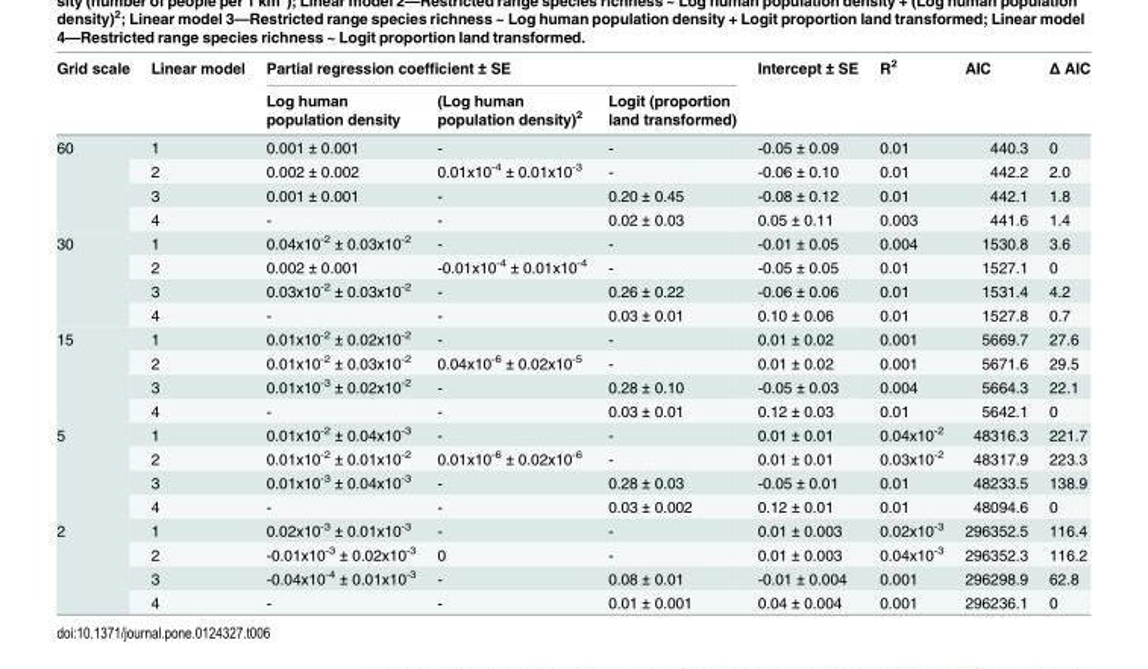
<table><thead><tr><td rowspan="2">Grid scale</td><td rowspan="2">Linear model</td><td colspan="3">Partial regression coefficient ± SE</td><td rowspan="2">Intercept ± SE</td><td rowspan="2">R<sup>2</sup></td><td rowspan="2">AIC</td><td rowspan="2">Δ AIC</td></tr><tr><td>Log human population density</td><td>(Log human population density)<sup>2</sup></td><td>Logit (proportion land transformed)</td></tr></thead><tbody><tr><td rowspan="4">60</td><td>1</td><td>0.001 ± 0.001</td><td>-</td><td>-</td><td>-0.05 ± 0.09</td><td>0.01</td><td>440.3</td><td>0</td></tr><tr><td>2</td><td>0.002 ± 0.002</td><td>0.01x10<sup>-4</sup> ± 0.01x10<sup>-3</sup></td><td>-</td><td>-0.06 ± 0.10</td><td>0.01</td><td>442.2</td><td>2.0</td></tr><tr><td>3</td><td>0.001 ± 0.001</td><td>-</td><td>0.20 ± 0.45</td><td>-0.08 ± 0.12</td><td>0.01</td><td>442.1</td><td>1.8</td></tr><tr><td>4</td><td>-</td><td>-</td><td>0.02 ± 0.03</td><td>0.05 ± 0.11</td><td>0.003</td><td>441.6</td><td>1.4</td></tr><tr><td rowspan="4">30</td><td>1</td><td>0.04x10<sup>-2</sup> ± 0.03x10<sup>-2</sup></td><td>-</td><td>-</td><td>-0.01 ± 0.05</td><td>0.004</td><td>1530.8</td><td>3.6</td></tr><tr><td>2</td><td>0.002 ± 0.001</td><td>-0.01x10<sup>-4</sup> ± 0.01x10<sup>-4</sup></td><td>-</td><td>-0.05 ± 0.05</td><td>0.01</td><td>1527.1</td><td>0</td></tr><tr><td>3</td><td>0.03x10<sup>-2</sup> ± 0.03x10<sup>-2</sup></td><td>-</td><td>0.26 ± 0.22</td><td>-0.06 ± 0.06</td><td>0.01</td><td>1531.4</td><td>4.2</td></tr><tr><td>4</td><td>-</td><td>-</td><td>0.03 ± 0.01</td><td>0.10 ± 0.06</td><td>0.01</td><td>1527.8</td><td>0.7</td></tr><tr><td rowspan="4">15</td><td>1</td><td>0.01x10<sup>-2</sup> ± 0.02x10<sup>-2</sup></td><td>-</td><td>-</td><td>0.01 ± 0.02</td><td>0.001</td><td>5669.7</td><td>27.6</td></tr><tr><td>2</td><td>0.01x10<sup>-2</sup> ± 0.03x10<sup>-2</sup></td><td>0.04x10<sup>-6</sup> ± 0.02x10<sup>-5</sup></td><td>-</td><td>0.01 ± 0.02</td><td>0.001</td><td>5671.6</td><td>29.5</td></tr><tr><td>3</td><td>0.01x10<sup>-3</sup> ± 0.02x10<sup>-2</sup></td><td>-</td><td>0.28 ± 0.10</td><td>-0.05 ± 0.03</td><td>0.004</td><td>5664.3</td><td>22.1</td></tr><tr><td>4</td><td>-</td><td>-</td><td>0.03 ± 0.01</td><td>0.12 ± 0.03</td><td>0.01</td><td>5642.1</td><td>0</td></tr><tr><td rowspan="4">5</td><td>1</td><td>0.01x10<sup>-2</sup> ± 0.04x10<sup>-3</sup></td><td>-</td><td>-</td><td>0.01 ± 0.01</td><td>0.04x10<sup>-2</sup></td><td>48316.3</td><td>221.7</td></tr><tr><td>2</td><td>0.01x10<sup>-2</sup> ± 0.01x10<sup>-2</sup></td><td>0.01x10<sup>-6</sup> ± 0.02x10<sup>-6</sup></td><td>-</td><td>0.01 ± 0.01</td><td>0.03x10<sup>-2</sup></td><td>48317.9</td><td>223.3</td></tr><tr><td>3</td><td>0.01x10<sup>-3</sup> ± 0.04x10<sup>-3</sup></td><td>-</td><td>0.28 ± 0.03</td><td>-0.05 ± 0.01</td><td>0.01</td><td>48233.5</td><td>138.9</td></tr><tr><td>4</td><td>-</td><td>-</td><td>0.03 ± 0.002</td><td>0.12 ± 0.01</td><td>0.01</td><td>48094.6</td><td>0</td></tr><tr><td rowspan="4">2</td><td>1</td><td>0.02x10<sup>-3</sup> ± 0.01x10<sup>-3</sup></td><td>-</td><td>-</td><td>0.01 ± 0.003</td><td>0.02x10<sup>-3</sup></td><td>296352.5</td><td>116.4</td></tr><tr><td>2</td><td>-0.01x10<sup>-3</sup> ± 0.02x10<sup>-3</sup></td><td>0</td><td>-</td><td>0.01 ± 0.003</td><td>0.04x10<sup>-3</sup></td><td>296352.3</td><td>116.2</td></tr><tr><td>3</td><td>-0.04x10<sup>-4</sup> ± 0.01x10<sup>-3</sup></td><td>-</td><td>0.08 ± 0.01</td><td>-0.01 ± 0.004</td><td>0.001</td><td>296298.9</td><td>62.8</td></tr><tr><td>4</td><td>-</td><td>-</td><td>0.01 ± 0.001</td><td>0.04 ± 0.004</td><td>0.001</td><td>296236.1</td><td>0</td></tr></tbody></table>